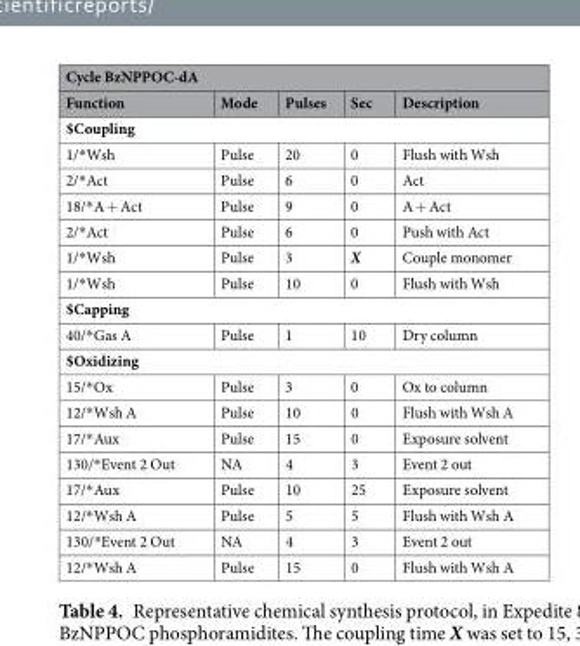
<table><thead><tr><td colspan="5">Cycle BzNPPOC-dA</td></tr><tr><td>Function</td><td>Mode</td><td>Pulses</td><td>Sec</td><td>Description</td></tr></thead><tbody><tr><td colspan="5">$Coupling</td></tr><tr><td>1/*Wsh</td><td>Pulse</td><td>20</td><td>0</td><td>Flush with Wsh</td></tr><tr><td>2/*Act</td><td>Pulse</td><td>6</td><td>0</td><td>Act</td></tr><tr><td>18/*A + Act</td><td>Pulse</td><td>9</td><td>0</td><td>A + Act</td></tr><tr><td>2/*Act</td><td>Pulse</td><td>6</td><td>0</td><td>Push with Act</td></tr><tr><td>1/*Wsh</td><td>Pulse</td><td>3</td><td>X</td><td>Couple monomer</td></tr><tr><td>1/*Wsh</td><td>Pulse</td><td>10</td><td>0</td><td>Flush with Wsh</td></tr><tr><td colspan="5">$Capping</td></tr><tr><td>40/*Gas A</td><td>Pulse</td><td>1</td><td>10</td><td>Dry column</td></tr><tr><td colspan="5">$Oxidizing</td></tr><tr><td>15/*Ox</td><td>Pulse</td><td>3</td><td>0</td><td>Ox to column</td></tr><tr><td>12/*Wsh A</td><td>Pulse</td><td>10</td><td>0</td><td>Flush with Wsh A</td></tr><tr><td>17/*Aux</td><td>Pulse</td><td>15</td><td>0</td><td>Exposure solvent</td></tr><tr><td>130/*Event 2 Out</td><td>NA</td><td>4</td><td>3</td><td>Event 2 out</td></tr><tr><td>17/*Aux</td><td>Pulse</td><td>10</td><td>25</td><td>Exposure solvent</td></tr><tr><td>12/*Wsh A</td><td>Pulse</td><td>5</td><td>5</td><td>Flush with Wsh A</td></tr><tr><td>130/*Event 2 Out</td><td>NA</td><td>4</td><td>3</td><td>Event 2 out</td></tr><tr><td>12/*Wsh A</td><td>Pulse</td><td>15</td><td>0</td><td>Flush with Wsh A</td></tr></tbody></table>